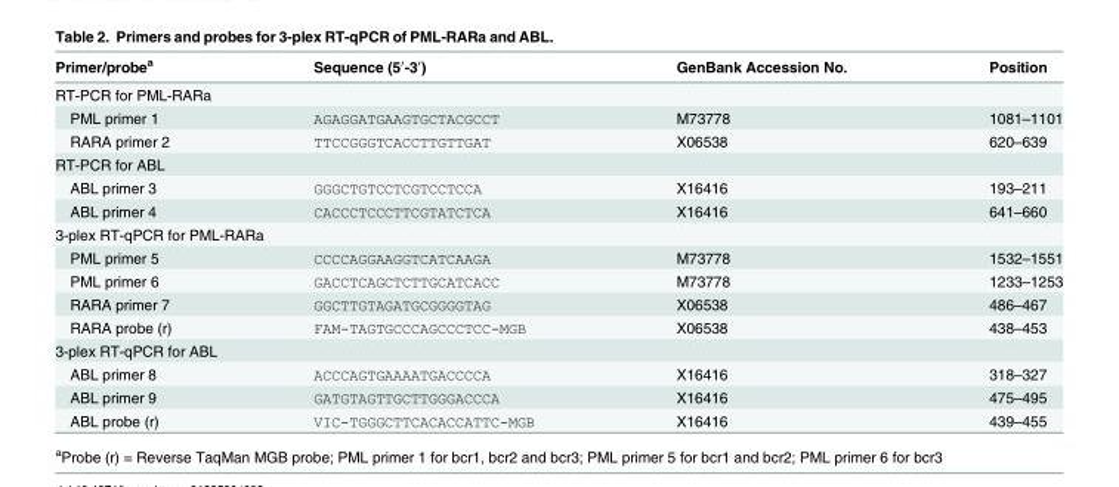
<table><thead><tr><td>Primer/probe<sup>a</sup></td><td>Sequence (5′-3′)</td><td>GenBank Accession No.</td><td>Position</td></tr></thead><tbody><tr><td colspan="4">RT-PCR for PML-RARa</td></tr><tr><td>PML primer 1</td><td>AGAGGATGAAGTGCTACGCCT</td><td>M73778</td><td>1081–1101</td></tr><tr><td>RARA primer 2</td><td>TTCCGGGTCACCTTGTTGAT</td><td>X06538</td><td>620–639</td></tr><tr><td colspan="4">RT-PCR for ABL</td></tr><tr><td>ABL primer 3</td><td>GGGCTGTCCTCGTCCTCCA</td><td>X16416</td><td>193–211</td></tr><tr><td>ABL primer 4</td><td>CACCCTCCCTTCGTATCTCA</td><td>X16416</td><td>641–660</td></tr><tr><td colspan="4">3-plex RT-qPCR for PML-RARa</td></tr><tr><td>PML primer 5</td><td>CCCCAGGAAGGTCATCAAGA</td><td>M73778</td><td>1532–1551</td></tr><tr><td>PML primer 6</td><td>GACCTCAGCTCTTGCATCACC</td><td>M73778</td><td>1233–1253</td></tr><tr><td>RARA primer 7</td><td>GGCTTGTAGATGCGGGGTAG</td><td>X06538</td><td>486–467</td></tr><tr><td>RARA probe (r)</td><td>FAM-TAGTGCCCAGCCCTCC-MGB</td><td>X06538</td><td>438–453</td></tr><tr><td colspan="4">3-plex RT-qPCR for ABL</td></tr><tr><td>ABL primer 8</td><td>ACCCAGTGAAAATGACCCCA</td><td>X16416</td><td>318–327</td></tr><tr><td>ABL primer 9</td><td>GATGTAGTTGCTTGGGACCCA</td><td>X16416</td><td>475–495</td></tr><tr><td>ABL probe (r)</td><td>VIC-TGGGCTTCACACCATTC-MGB</td><td>X16416</td><td>439–455</td></tr></tbody></table>